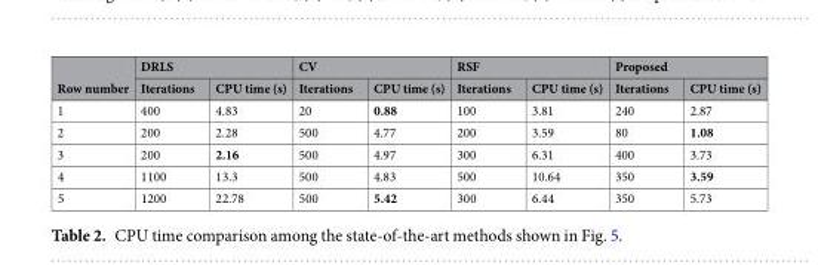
<table><thead><tr><td rowspan="2">Row number</td><td colspan="2">DRLS</td><td colspan="2">CV</td><td colspan="2">RSF</td><td colspan="2">Proposed</td></tr><tr><td>Iterations</td><td>CPU time (s)</td><td>Iterations</td><td>CPU time (s)</td><td>Iterations</td><td>CPU time (s)</td><td>Iterations</td><td>CPU time (s)</td></tr></thead><tbody><tr><td>1</td><td>400</td><td>4.83</td><td>20</td><td>0.88</td><td>100</td><td>3.81</td><td>240</td><td>2.87</td></tr><tr><td>2</td><td>200</td><td>2.28</td><td>500</td><td>4.77</td><td>200</td><td>3.59</td><td>80</td><td>1.08</td></tr><tr><td>3</td><td>200</td><td>2.16</td><td>500</td><td>4.97</td><td>300</td><td>6.31</td><td>400</td><td>3.73</td></tr><tr><td>4</td><td>1100</td><td>13.3</td><td>500</td><td>4.83</td><td>500</td><td>10.64</td><td>350</td><td>3.59</td></tr><tr><td>5</td><td>1200</td><td>22.78</td><td>500</td><td>5.42</td><td>300</td><td>6.44</td><td>350</td><td>5.73</td></tr></tbody></table>